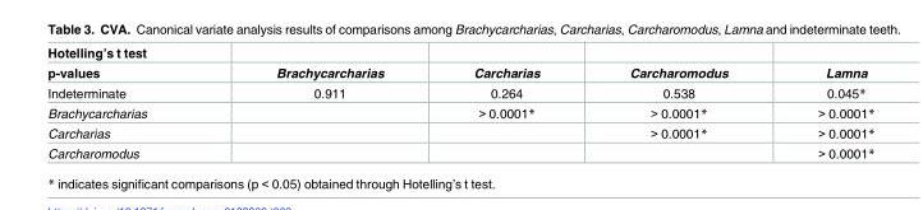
<table><thead><tr><td rowspan="2">Hotelling’s t test p-values</td><td rowspan="2">Brachycarcharias</td><td rowspan="2">Carcharias</td><td rowspan="2">Carcharomodus</td><td rowspan="2">Lamna</td></tr><tr></tr></thead><tbody><tr><td>Indeterminate</td><td>0.911</td><td>0.264</td><td>0.538</td><td>0.045*</td></tr><tr><td>Brachycarcharias</td><td></td><td>&gt; 0.0001*</td><td>&gt; 0.0001*</td><td>&gt; 0.0001*</td></tr><tr><td>Carcharias</td><td></td><td></td><td>&gt; 0.0001*</td><td>&gt; 0.0001*</td></tr><tr><td>Carcharomodus</td><td></td><td></td><td></td><td>&gt; 0.0001*</td></tr></tbody></table>